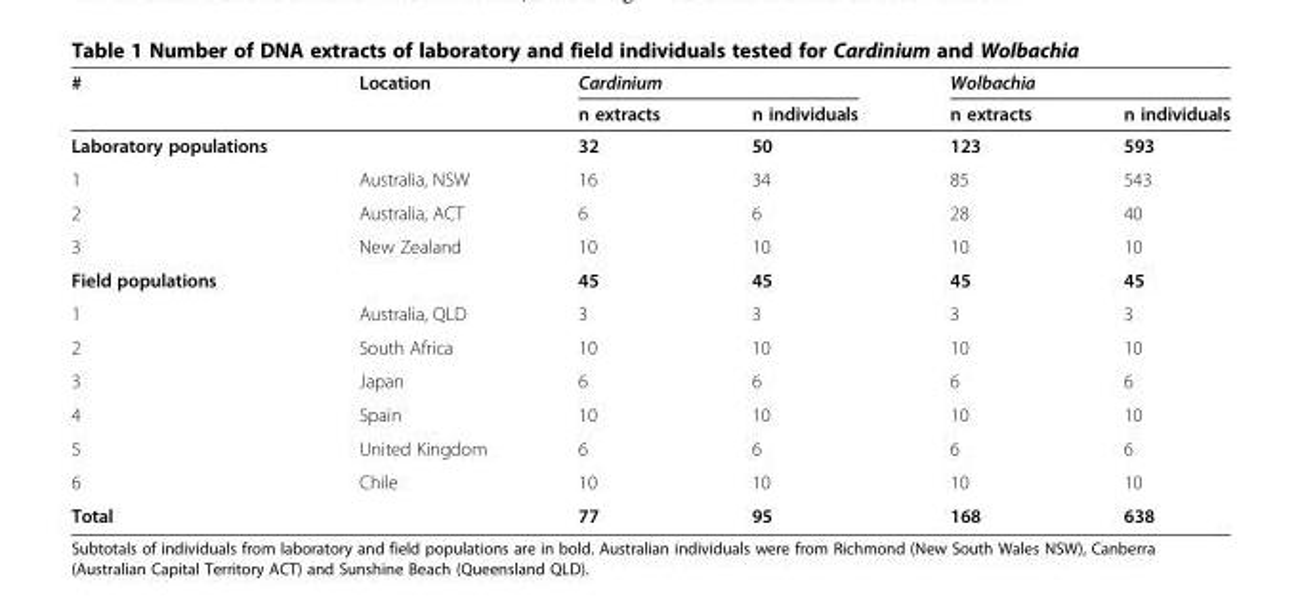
<table><thead><tr><td rowspan="2">#</td><td rowspan="2">Location</td><td colspan="2">Cardinium</td><td colspan="2">Wolbachia</td></tr><tr><td>n extracts</td><td>n individuals</td><td>n extracts</td><td>n individuals</td></tr></thead><tbody><tr><td>Laboratory populations</td><td></td><td>32</td><td>50</td><td>123</td><td>593</td></tr><tr><td>1</td><td>Australia, NSW</td><td>16</td><td>34</td><td>85</td><td>543</td></tr><tr><td>2</td><td>Australia, ACT</td><td>6</td><td>6</td><td>28</td><td>40</td></tr><tr><td>3</td><td>New Zealand</td><td>10</td><td>10</td><td>10</td><td>10</td></tr><tr><td>Field populations</td><td></td><td>45</td><td>45</td><td>45</td><td>45</td></tr><tr><td>1</td><td>Australia, QLD</td><td>3</td><td>3</td><td>3</td><td>3</td></tr><tr><td>2</td><td>South Africa</td><td>10</td><td>10</td><td>10</td><td>10</td></tr><tr><td>3</td><td>Japan</td><td>6</td><td>6</td><td>6</td><td>6</td></tr><tr><td>4</td><td>Spain</td><td>10</td><td>10</td><td>10</td><td>10</td></tr><tr><td>5</td><td>United Kingdom</td><td>6</td><td>6</td><td>6</td><td>6</td></tr><tr><td>6</td><td>Chile</td><td>10</td><td>10</td><td>10</td><td>10</td></tr><tr><td>Total</td><td></td><td>77</td><td>95</td><td>168</td><td>638</td></tr></tbody></table>